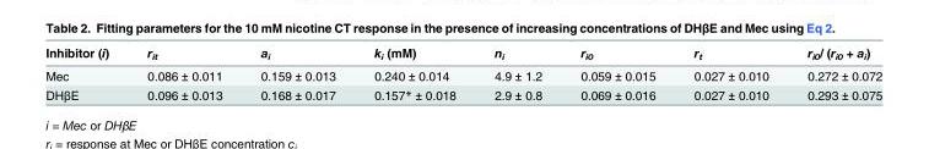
<table><thead><tr><td>Inhibitor (i)</td><td>r<sub>it</sub></td><td>a<sub>i</sub></td><td>k<sub>i</sub> (mM)</td><td>n<sub>i</sub></td><td>r<sub>i0</sub></td><td>r<sub>t</sub></td><td>r<sub>i0</sub>/ (r<sub>i0</sub> + a<sub>i</sub>)</td></tr></thead><tbody><tr><td>Mec</td><td>0.086 ± 0.011</td><td>0.159 ± 0.013</td><td>0.240 ± 0.014</td><td>4.9 ± 1.2</td><td>0.059 ± 0.015</td><td>0.027 ± 0.010</td><td>0.272 ± 0.072</td></tr><tr><td>DHβE</td><td>0.096 ± 0.013</td><td>0.168 ± 0.017</td><td>0.157* ± 0.018</td><td>2.9 ± 0.8</td><td>0.069 ± 0.016</td><td>0.027 ± 0.010</td><td>0.293 ± 0.075</td></tr></tbody></table>